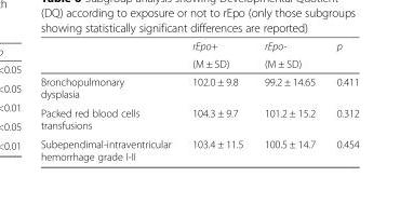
<table><thead><tr><td rowspan="2"></td><td rowspan="2">rEpo+ (M ± SD)</td><td rowspan="2">rEpo- (M ± SD)</td><td rowspan="2">p</td></tr><tr></tr></thead><tbody><tr><td>Bronchopulmonary dysplasia</td><td>102.0 ± 9.8</td><td>99.2 ± 14.65</td><td>0.411</td></tr><tr><td>Packed red blood cells transfusions</td><td>104.3 ± 9.7</td><td>101.2 ± 15.2</td><td>0.312</td></tr><tr><td>Subependimal-intraventricular hemorrhage grade I-II</td><td>103.4 ± 11.5</td><td>100.5 ± 14.7</td><td>0.454</td></tr></tbody></table>